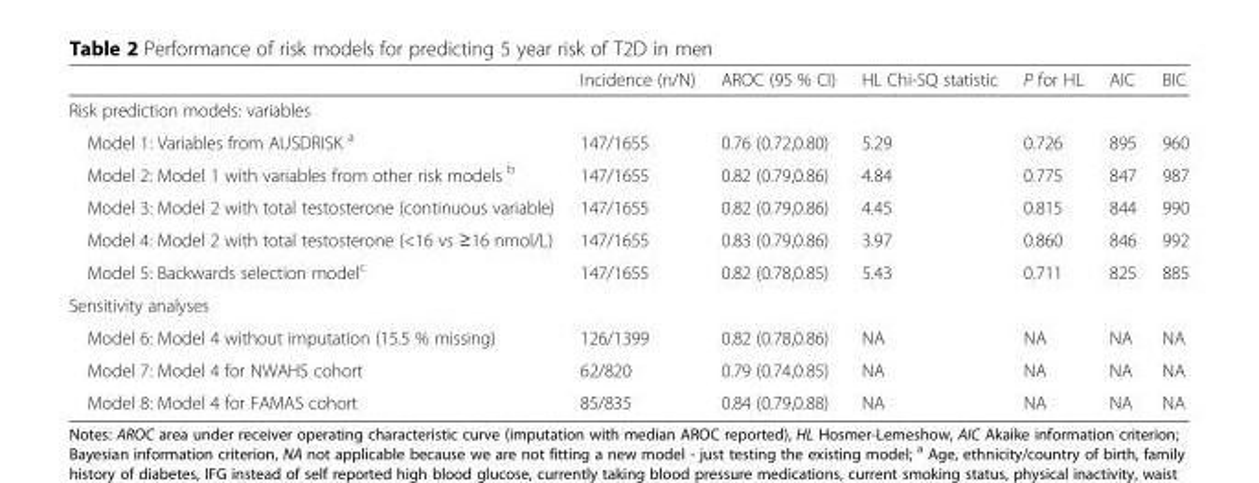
<table><thead><tr><td></td><td>Incidence (n/N)</td><td>AROC (95 % CI)</td><td>HL Chi-SQ statistic</td><td>P for HL</td><td>AIC</td><td>BIC</td></tr></thead><tbody><tr><td colspan="7">Risk prediction models: variables</td></tr><tr><td>Model 1: Variables from AUSDRISK <sup>a</sup></td><td>147/1655</td><td>0.76 (0.72,0.80)</td><td>5.29</td><td>0.726</td><td>895</td><td>960</td></tr><tr><td>Model 2: Model 1 with variables from other risk models <sup>b</sup></td><td>147/1655</td><td>0.82 (0.79,0.86)</td><td>4.84</td><td>0.775</td><td>847</td><td>987</td></tr><tr><td>Model 3: Model 2 with total testosterone (continuous variable)</td><td>147/1655</td><td>0.82 (0.79,0.86)</td><td>4.45</td><td>0.815</td><td>844</td><td>990</td></tr><tr><td>Model 4: Model 2 with total testosterone (&lt;16 vs ≥16 nmol/L)</td><td>147/1655</td><td>0.83 (0.79,0.86)</td><td>3.97</td><td>0.860</td><td>846</td><td>992</td></tr><tr><td>Model 5: Backwards selection model<sup>c</sup></td><td>147/1655</td><td>0.82 (0.78,0.85)</td><td>5.43</td><td>0.711</td><td>825</td><td>885</td></tr><tr><td colspan="7">Sensitivity analyses</td></tr><tr><td>Model 6: Model 4 without imputation (15.5 % missing)</td><td>126/1399</td><td>0.82 (0.78,0.86)</td><td>NA</td><td>NA</td><td>NA</td><td>NA</td></tr><tr><td>Model 7: Model 4 for NWAHS cohort</td><td>62/820</td><td>0.79 (0.74,0.85)</td><td>NA</td><td>NA</td><td>NA</td><td>NA</td></tr><tr><td>Model 8: Model 4 for FAMAS cohort</td><td>85/835</td><td>0.84 (0.79,0.88)</td><td>NA</td><td>NA</td><td>NA</td><td>NA</td></tr></tbody></table>